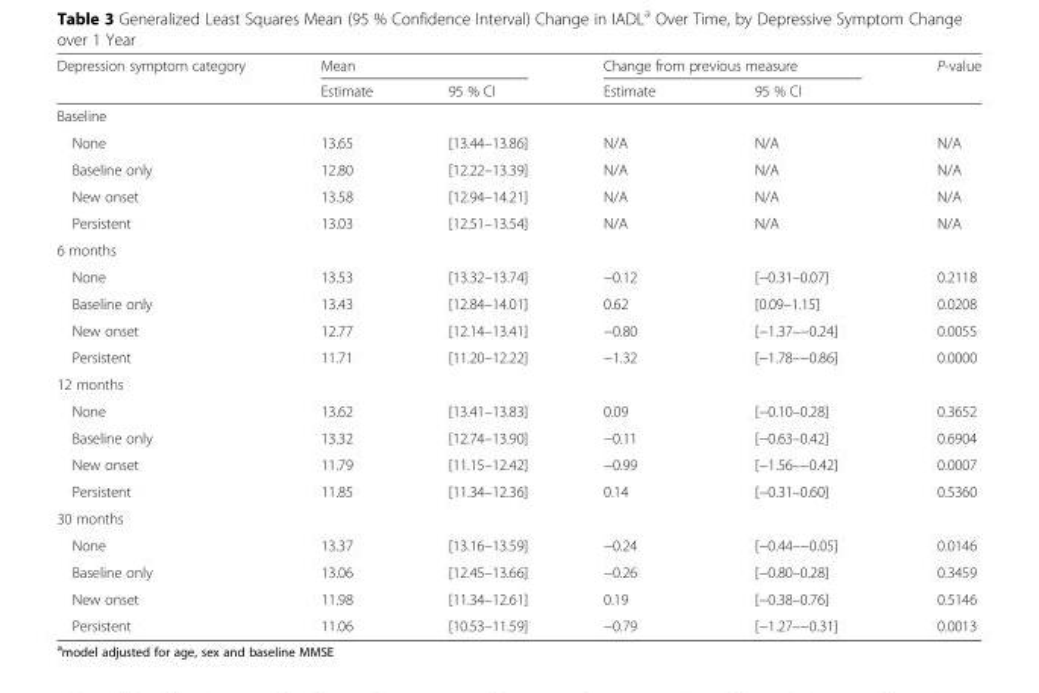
<table><thead><tr><td rowspan="2">Depression symptom category</td><td colspan="2">Mean</td><td colspan="2">Change from previous measure</td><td rowspan="2">P-value</td></tr><tr><td>Estimate</td><td>95 % CI</td><td>Estimate</td><td>95 % CI</td></tr></thead><tbody><tr><td colspan="6">Baseline</td></tr><tr><td>None</td><td>13.65</td><td>[13.44–13.86]</td><td>N/A</td><td>N/A</td><td>N/A</td></tr><tr><td>Baseline only</td><td>12.80</td><td>[12.22–13.39]</td><td>N/A</td><td>N/A</td><td>N/A</td></tr><tr><td>New onset</td><td>13.58</td><td>[12.94–14.21]</td><td>N/A</td><td>N/A</td><td>N/A</td></tr><tr><td>Persistent</td><td>13.03</td><td>[12.51–13.54]</td><td>N/A</td><td>N/A</td><td>N/A</td></tr><tr><td colspan="6">6 months</td></tr><tr><td>None</td><td>13.53</td><td>[13.32–13.74]</td><td>−0.12</td><td>[−0.31–0.07]</td><td>0.2118</td></tr><tr><td>Baseline only</td><td>13.43</td><td>[12.84–14.01]</td><td>0.62</td><td>[0.09–1.15]</td><td>0.0208</td></tr><tr><td>New onset</td><td>12.77</td><td>[12.14–13.41]</td><td>−0.80</td><td>[−1.37–−0.24]</td><td>0.0055</td></tr><tr><td>Persistent</td><td>11.71</td><td>[11.20–12.22]</td><td>−1.32</td><td>[−1.78–−0.86]</td><td>0.0000</td></tr><tr><td colspan="6">12 months</td></tr><tr><td>None</td><td>13.62</td><td>[13.41–13.83]</td><td>0.09</td><td>[−0.10–0.28]</td><td>0.3652</td></tr><tr><td>Baseline only</td><td>13.32</td><td>[12.74–13.90]</td><td>−0.11</td><td>[−0.63–0.42]</td><td>0.6904</td></tr><tr><td>New onset</td><td>11.79</td><td>[11.15–12.42]</td><td>−0.99</td><td>[−1.56–−0.42]</td><td>0.0007</td></tr><tr><td>Persistent</td><td>11.85</td><td>[11.34–12.36]</td><td>0.14</td><td>[−0.31–0.60]</td><td>0.5360</td></tr><tr><td colspan="6">30 months</td></tr><tr><td>None</td><td>13.37</td><td>[13.16–13.59]</td><td>−0.24</td><td>[−0.44–−0.05]</td><td>0.0146</td></tr><tr><td>Baseline only</td><td>13.06</td><td>[12.45–13.66]</td><td>−0.26</td><td>[−0.80–0.28]</td><td>0.3459</td></tr><tr><td>New onset</td><td>11.98</td><td>[11.34–12.61]</td><td>0.19</td><td>[−0.38–0.76]</td><td>0.5146</td></tr><tr><td>Persistent</td><td>11.06</td><td>[10.53–11.59]</td><td>−0.79</td><td>[−1.27–−0.31]</td><td>0.0013</td></tr></tbody></table>